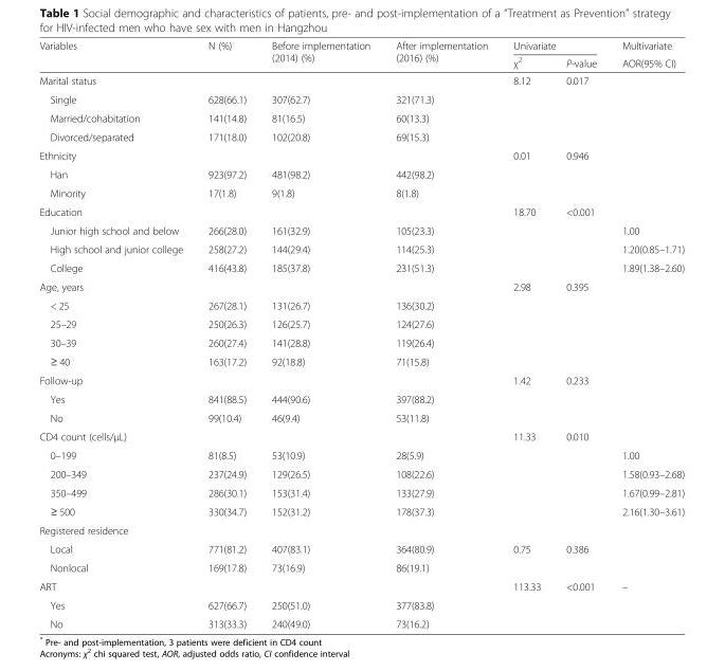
<table><thead><tr><td rowspan="2">Variables</td><td rowspan="2">N (%)</td><td rowspan="2">Before implementation (2014) (%)</td><td rowspan="2">After implementation (2016) (%)</td><td colspan="2">Univariate</td><td rowspan="2">Multivariate AOR(95% CI)</td></tr><tr><td>χ<sup>2</sup></td><td>P-value</td></tr></thead><tbody><tr><td>Marital status</td><td></td><td></td><td></td><td>8.12</td><td>0.017</td><td></td></tr><tr><td>Single</td><td>628(66.1)</td><td>307(62.7)</td><td>321(71.3)</td><td></td><td></td><td></td></tr><tr><td>Married/cohabitation</td><td>141(14.8)</td><td>81(16.5)</td><td>60(13.3)</td><td></td><td></td><td></td></tr><tr><td>Divorced/separated</td><td>171(18.0)</td><td>102(20.8)</td><td>69(15.3)</td><td></td><td></td><td></td></tr><tr><td>Ethnicity</td><td></td><td></td><td></td><td>0.01</td><td>0.946</td><td></td></tr><tr><td>Han</td><td>923(97.2)</td><td>481(98.2)</td><td>442(98.2)</td><td></td><td></td><td></td></tr><tr><td>Minority</td><td>17(1.8)</td><td>9(1.8)</td><td>8(1.8)</td><td></td><td></td><td></td></tr><tr><td>Education</td><td></td><td></td><td></td><td>18.70</td><td>&lt;0.001</td><td></td></tr><tr><td>Junior high school and below</td><td>266(28.0)</td><td>161(32.9)</td><td>105(23.3)</td><td></td><td></td><td>1.00</td></tr><tr><td>High school and junior college</td><td>258(27.2)</td><td>144(29.4)</td><td>114(25.3)</td><td></td><td></td><td>1.20(0.85–1.71)</td></tr><tr><td>College</td><td>416(43.8)</td><td>185(37.8)</td><td>231(51.3)</td><td></td><td></td><td>1.89(1.38–2.60)</td></tr><tr><td>Age, years</td><td></td><td></td><td></td><td>2.98</td><td>0.395</td><td></td></tr><tr><td>&lt; 25</td><td>267(28.1)</td><td>131(26.7)</td><td>136(30.2)</td><td></td><td></td><td></td></tr><tr><td>25–29</td><td>250(26.3)</td><td>126(25.7)</td><td>124(27.6)</td><td></td><td></td><td></td></tr><tr><td>30–39</td><td>260(27.4)</td><td>141(28.8)</td><td>119(26.4)</td><td></td><td></td><td></td></tr><tr><td>≥ 40</td><td>163(17.2)</td><td>92(18.8)</td><td>71(15.8)</td><td></td><td></td><td></td></tr><tr><td>Follow-up</td><td></td><td></td><td></td><td>1.42</td><td>0.233</td><td></td></tr><tr><td>Yes</td><td>841(88.5)</td><td>444(90.6)</td><td>397(88.2)</td><td></td><td></td><td></td></tr><tr><td>No</td><td>99(10.4)</td><td>46(9.4)</td><td>53(11.8)</td><td></td><td></td><td></td></tr><tr><td>CD4 count (cells/μL)</td><td></td><td></td><td></td><td>11.33</td><td>0.010</td><td></td></tr><tr><td>0–199</td><td>81(8.5)</td><td>53(10.9)</td><td>28(5.9)</td><td></td><td></td><td>1.00</td></tr><tr><td>200–349</td><td>237(24.9)</td><td>129(26.5)</td><td>108(22.6)</td><td></td><td></td><td>1.58(0.93–2.68)</td></tr><tr><td>350–499</td><td>286(30.1)</td><td>153(31.4)</td><td>133(27.9)</td><td></td><td></td><td>1.67(0.99–2.81)</td></tr><tr><td>≥ 500</td><td>330(34.7)</td><td>152(31.2)</td><td>178(37.3)</td><td></td><td></td><td>2.16(1.30–3.61)</td></tr><tr><td colspan="7">Registered residence</td></tr><tr><td>Local</td><td>771(81.2)</td><td>407(83.1)</td><td>364(80.9)</td><td>0.75</td><td>0.386</td><td></td></tr><tr><td>Nonlocal</td><td>169(17.8)</td><td>73(16.9)</td><td>86(19.1)</td><td></td><td></td><td></td></tr><tr><td>ART</td><td></td><td></td><td></td><td>113.33</td><td>&lt;0.001</td><td>–</td></tr><tr><td>Yes</td><td>627(66.7)</td><td>250(51.0)</td><td>377(83.8)</td><td></td><td></td><td></td></tr><tr><td>No</td><td>313(33.3)</td><td>240(49.0)</td><td>73(16.2)</td><td></td><td></td><td></td></tr></tbody></table>